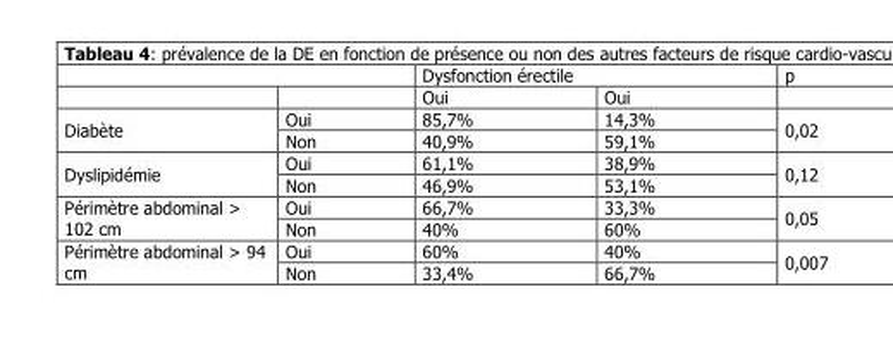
<table><thead><tr><td rowspan="2"></td><td rowspan="2"></td><td colspan="2">Dysfonction érectile</td><td rowspan="2">p</td></tr><tr><td>Oui</td><td>Oui</td></tr></thead><tbody><tr><td rowspan="2">Diabète</td><td>Oui</td><td>85,7%</td><td>14,3%</td><td rowspan="2">0,02</td></tr><tr><td>Non</td><td>40,9%</td><td>59,1%</td></tr><tr><td rowspan="2">Dyslipidémie</td><td>Oui</td><td>61,1%</td><td>38,9%</td><td rowspan="2">0,12</td></tr><tr><td>Non</td><td>46,9%</td><td>53,1%</td></tr><tr><td rowspan="2">Périmètre abdominal ˃ 102 cm</td><td>Oui</td><td>66,7%</td><td>33,3%</td><td rowspan="2">0,05</td></tr><tr><td>Non</td><td>40%</td><td>60%</td></tr><tr><td rowspan="2">Périmètre abdominal ˃ 94 cm</td><td>Oui</td><td>60%</td><td>40%</td><td rowspan="2">0,007</td></tr><tr><td>Non</td><td>33,4%</td><td>66,7%</td></tr></tbody></table>